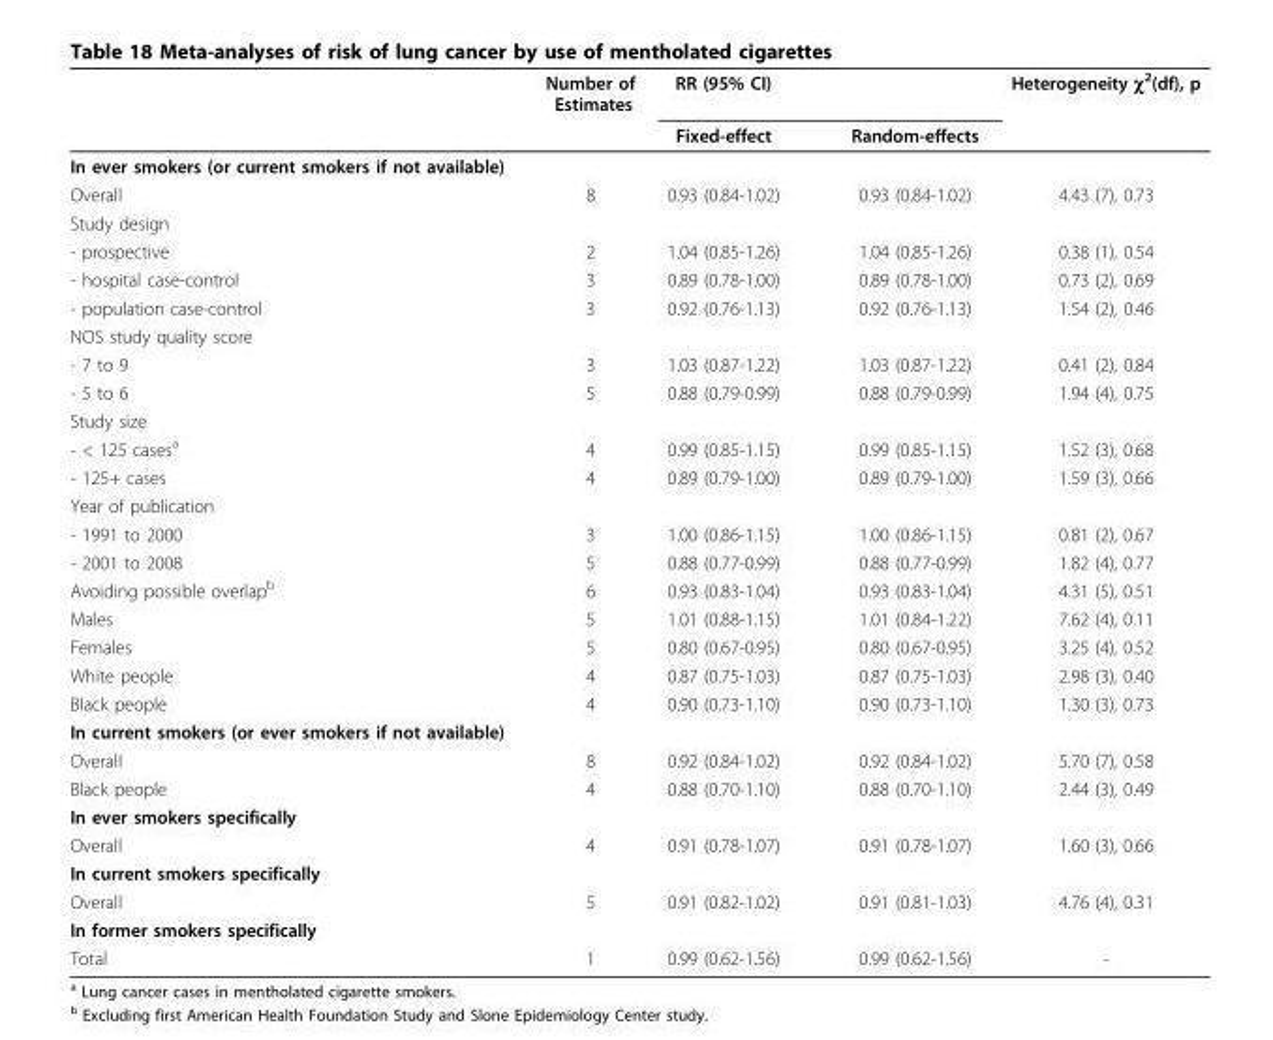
<table><thead><tr><td rowspan="2"></td><td rowspan="2">Number of Estimates</td><td rowspan="2">RR (95% CI) Fixed-effect</td><td rowspan="2">Random-effects</td><td rowspan="2">Heterogeneity χ<sup>2</sup>(df), p</td></tr><tr></tr></thead><tbody><tr><td colspan="5">In ever smokers (or current smokers if not available)</td></tr><tr><td>Overall</td><td>8</td><td>0.93 (0.84-1.02)</td><td>0.93 (0.84-1.02)</td><td>4.43 (7), 0.73</td></tr><tr><td colspan="5">Study design</td></tr><tr><td>- prospective</td><td>2</td><td>1.04 (0.85-1.26)</td><td>1.04 (0.85-1.26)</td><td>0.38 (1), 0.54</td></tr><tr><td>- hospital case-control</td><td>3</td><td>0.89 (0.78-1.00)</td><td>0.89 (0.78-1.00)</td><td>0.73 (2), 0.69</td></tr><tr><td>- population case-control</td><td>3</td><td>0.92 (0.76-1.13)</td><td>0.92 (0.76-1.13)</td><td>1.54 (2), 0.46</td></tr><tr><td colspan="5">NOS study quality score</td></tr><tr><td>- 7 to 9</td><td>3</td><td>1.03 (0.87-1.22)</td><td>1.03 (0.87-1.22)</td><td>0.41 (2), 0.84</td></tr><tr><td>- 5 to 6</td><td>5</td><td>0.88 (0.79-0.99)</td><td>0.88 (0.79-0.99)</td><td>1.94 (4), 0.75</td></tr><tr><td colspan="5">Study size</td></tr><tr><td>- &lt; 125 cases<sup>a</sup></td><td>4</td><td>0.99 (0.85-1.15)</td><td>0.99 (0.85-1.15)</td><td>1.52 (3), 0.68</td></tr><tr><td>- 125+ cases</td><td>4</td><td>0.89 (0.79-1.00)</td><td>0.89 (0.79-1.00)</td><td>1.59 (3), 0.66</td></tr><tr><td colspan="5">Year of publication</td></tr><tr><td>- 1991 to 2000</td><td>3</td><td>1.00 (0.86-1.15)</td><td>1.00 (0.86-1.15)</td><td>0.81 (2), 0.67</td></tr><tr><td>- 2001 to 2008</td><td>5</td><td>0.88 (0.77-0.99)</td><td>0.88 (0.77-0.99)</td><td>1.82 (4), 0.77</td></tr><tr><td>Avoiding possible overlap<sup>b</sup></td><td>6</td><td>0.93 (0.83-1.04)</td><td>0.93 (0.83-1.04)</td><td>4.31 (5), 0.51</td></tr><tr><td>Males</td><td>5</td><td>1.01 (0.88-1.15)</td><td>1.01 (0.84-1.22)</td><td>7.62 (4), 0.11</td></tr><tr><td>Females</td><td>5</td><td>0.80 (0.67-0.95)</td><td>0.80 (0.67-0.95)</td><td>3.25 (4), 0.52</td></tr><tr><td>White people</td><td>4</td><td>0.87 (0.75-1.03)</td><td>0.87 (0.75-1.03)</td><td>2.98 (3), 0.40</td></tr><tr><td>Black people</td><td>4</td><td>0.90 (0.73-1.10)</td><td>0.90 (0.73-1.10)</td><td>1.30 (3), 0.73</td></tr><tr><td colspan="5">In current smokers (or ever smokers if not available)</td></tr><tr><td>Overall</td><td>8</td><td>0.92 (0.84-1.02)</td><td>0.92 (0.84-1.02)</td><td>5.70 (7), 0.58</td></tr><tr><td>Black people</td><td>4</td><td>0.88 (0.70-1.10)</td><td>0.88 (0.70-1.10)</td><td>2.44 (3), 0.49</td></tr><tr><td colspan="5">In ever smokers specifically</td></tr><tr><td>Overall</td><td>4</td><td>0.91 (0.78-1.07)</td><td>0.91 (0.78-1.07)</td><td>1.60 (3), 0.66</td></tr><tr><td colspan="5">In current smokers specifically</td></tr><tr><td>Overall</td><td>5</td><td>0.91 (0.82-1.02)</td><td>0.91 (0.81-1.03)</td><td>4.76 (4), 0.31</td></tr><tr><td colspan="5">In former smokers specifically</td></tr><tr><td>Total</td><td>1</td><td>0.99 (0.62-1.56)</td><td>0.99 (0.62-1.56)</td><td>-</td></tr></tbody></table>